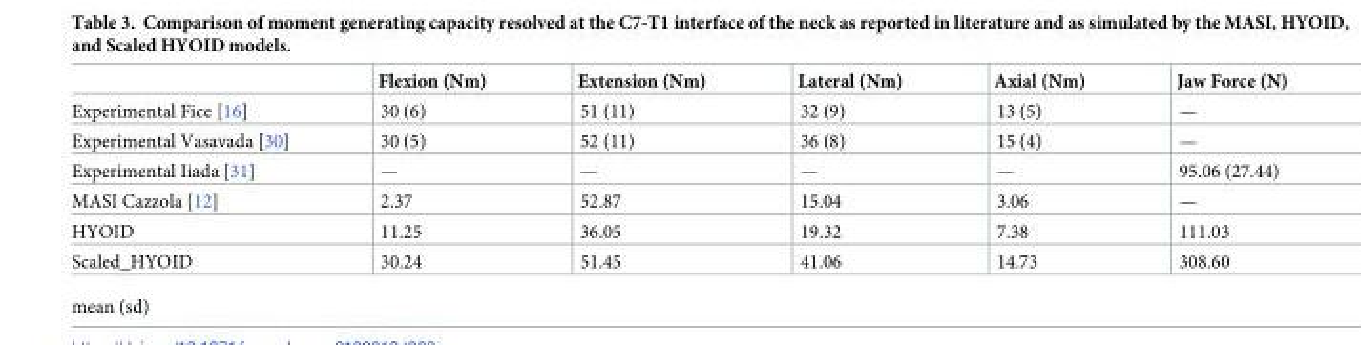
<table><thead><tr><td></td><td>Flexion (Nm)</td><td>Extension (Nm)</td><td>Lateral (Nm)</td><td>Axial (Nm)</td><td>Jaw Force (N)</td></tr></thead><tbody><tr><td>Experimental Fice [16]</td><td>30 (6)</td><td>51 (11)</td><td>32 (9)</td><td>13 (5)</td><td>—</td></tr><tr><td>Experimental Vasavada [30]</td><td>30 (5)</td><td>52 (11)</td><td>36 (8)</td><td>15 (4)</td><td>—</td></tr><tr><td>Experimental Iiada [31]</td><td>—</td><td>—</td><td>—</td><td>—</td><td>95.06 (27.44)</td></tr><tr><td>MASI Cazzola [12]</td><td>2.37</td><td>52.87</td><td>15.04</td><td>3.06</td><td>—</td></tr><tr><td>HYOID</td><td>11.25</td><td>36.05</td><td>19.32</td><td>7.38</td><td>111.03</td></tr><tr><td>Scaled_HYOID</td><td>30.24</td><td>51.45</td><td>41.06</td><td>14.73</td><td>308.60</td></tr></tbody></table>